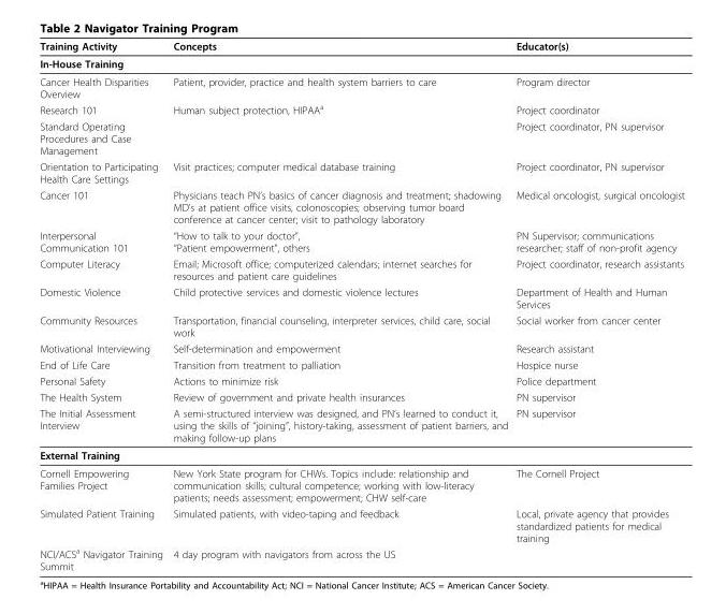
<table><thead><tr><td>Training Activity</td><td>Concepts</td><td>Educator(s)</td></tr></thead><tbody><tr><td colspan="3">In-House Training</td></tr><tr><td>Cancer Health Disparities Overview</td><td>Patient, provider, practice and health system barriers to care</td><td>Program director</td></tr><tr><td>Research 101</td><td>Human subject protection, HIPAA<sup>a</sup></td><td>Project coordinator</td></tr><tr><td>Standard Operating Procedures and Case Management</td><td></td><td>Project coordinator, PN supervisor</td></tr><tr><td>Orientation to Participating Health Care Settings</td><td>Visit practices; computer medical database training</td><td>Project coordinator, PN supervisor</td></tr><tr><td>Cancer 101</td><td>Physicians teach PN’s basics of cancer diagnosis and treatment; shadowing MD’s at patient office visits, colonoscopies; observing tumor board conference at cancer center; visit to pathology laboratory</td><td>Medical oncologist, surgical oncologist</td></tr><tr><td>Interpersonal Communication 101</td><td>“How to talk to your doctor”, “Patient empowerment”, others</td><td>PN Supervisor; communications researcher; staff of non-profit agency</td></tr><tr><td>Computer Literacy</td><td>Email; Microsoft office; computerized calendars; internet searches for resources and patient care guidelines</td><td>Project coordinator, research assistants</td></tr><tr><td>Domestic Violence</td><td>Child protective services and domestic violence lectures</td><td>Department of Health and Human Services</td></tr><tr><td>Community Resources</td><td>Transportation, financial counseling, interpreter services, child care, social work</td><td>Social worker from cancer center</td></tr><tr><td>Motivational Interviewing</td><td>Self-determination and empowerment</td><td>Research assistant</td></tr><tr><td>End of Life Care</td><td>Transition from treatment to palliation</td><td>Hospice nurse</td></tr><tr><td>Personal Safety</td><td>Actions to minimize risk</td><td>Police department</td></tr><tr><td>The Health System</td><td>Review of government and private health insurances</td><td>PN supervisor</td></tr><tr><td>The Initial Assessment Interview</td><td>A semi-structured interview was designed, and PN’s learned to conduct it, using the skills of “joining”, history-taking, assessment of patient barriers, and making follow-up plans</td><td>PN supervisor</td></tr><tr><td colspan="3">External Training</td></tr><tr><td>Cornell Empowering Families Project</td><td>New York State program for CHWs. Topics include: relationship and communication skills; cultural competence; working with low-literacy patients; needs assessment; empowerment; CHW self-care</td><td>The Cornell Project</td></tr><tr><td>Simulated Patient Training</td><td>Simulated patients, with video-taping and feedback</td><td>Local, private agency that provides standardized patients for medical training</td></tr><tr><td>NCI/ACS<sup>a</sup> Navigator Training Summit</td><td>4 day program with navigators from across the US</td><td></td></tr></tbody></table>